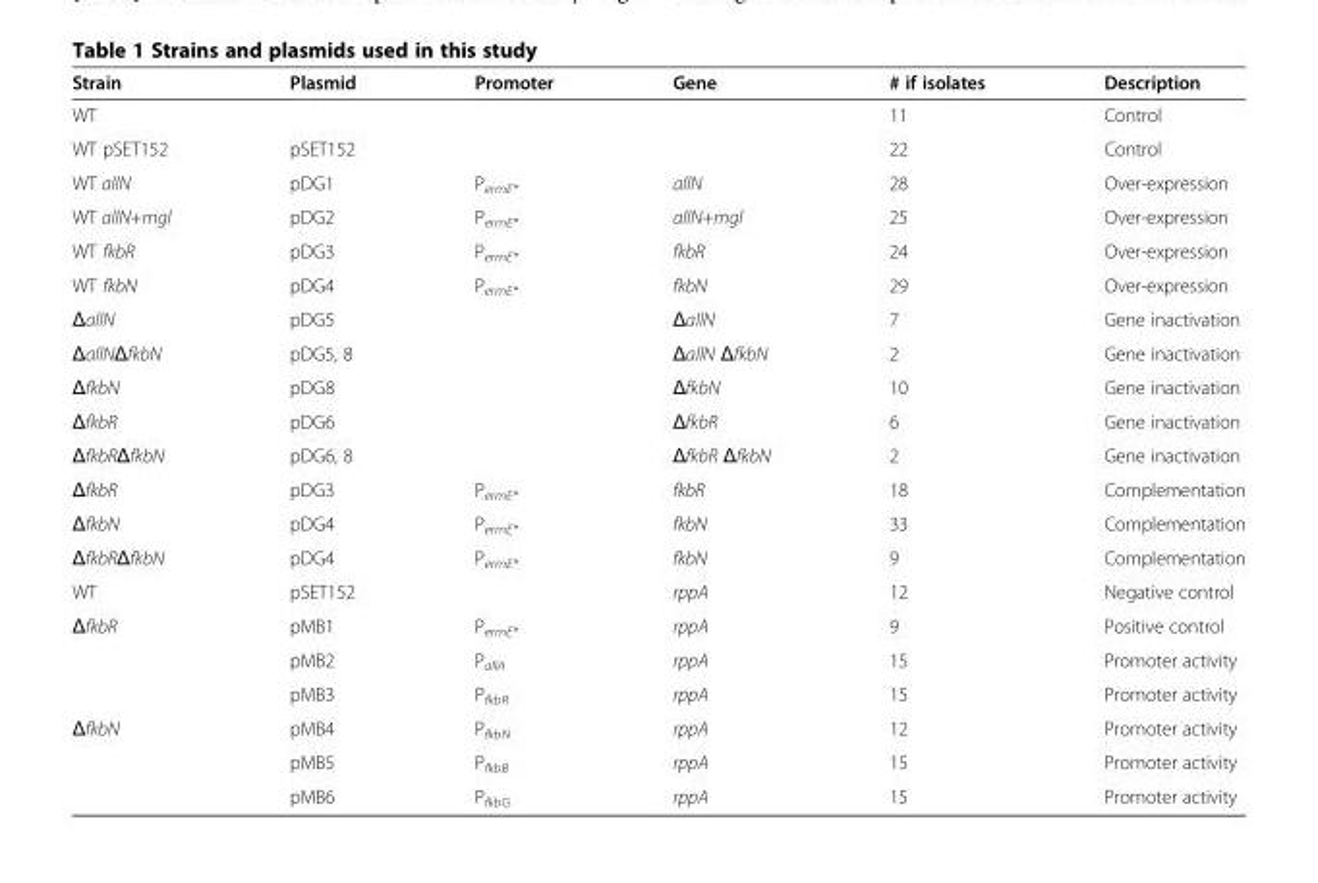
<table><thead><tr><td>Strain</td><td>Plasmid</td><td>Promoter</td><td>Gene</td><td># if isolates</td><td>Description</td></tr></thead><tbody><tr><td>WT</td><td></td><td></td><td></td><td>11</td><td>Control</td></tr><tr><td>WT pSET152</td><td>pSET152</td><td></td><td></td><td>22</td><td>Control</td></tr><tr><td>WT allN</td><td>pDG1</td><td>P<sub>ermE*</sub></td><td>allN</td><td>28</td><td>Over-expression</td></tr><tr><td>WT allN+mgl</td><td>pDG2</td><td>P<sub>ermE*</sub></td><td>allN+mgl</td><td>25</td><td>Over-expression</td></tr><tr><td>WT fkbR</td><td>pDG3</td><td>P<sub>ermE*</sub></td><td>fkbR</td><td>24</td><td>Over-expression</td></tr><tr><td>WT fkbN</td><td>pDG4</td><td>P<sub>ermE*</sub></td><td>fkbN</td><td>29</td><td>Over-expression</td></tr><tr><td>ΔallN</td><td>pDG5</td><td></td><td>ΔallN</td><td>7</td><td>Gene inactivation</td></tr><tr><td>ΔallNΔfkbN</td><td>pDG5, 8</td><td></td><td>ΔallN ΔfkbN</td><td>2</td><td>Gene inactivation</td></tr><tr><td>ΔfkbN</td><td>pDG8</td><td></td><td>ΔfkbN</td><td>10</td><td>Gene inactivation</td></tr><tr><td>ΔfkbR</td><td>pDG6</td><td></td><td>ΔfkbR</td><td>6</td><td>Gene inactivation</td></tr><tr><td>ΔfkbRΔfkbN</td><td>pDG6, 8</td><td></td><td>ΔfkbR ΔfkbN</td><td>2</td><td>Gene inactivation</td></tr><tr><td>ΔfkbR</td><td>pDG3</td><td>P<sub>ermE*</sub></td><td>fkbR</td><td>18</td><td>Complementation</td></tr><tr><td>ΔfkbN</td><td>pDG4</td><td>P<sub>ermE*</sub></td><td>fkbN</td><td>33</td><td>Complementation</td></tr><tr><td>ΔfkbRΔfkbN</td><td>pDG4</td><td>P<sub>ermE*</sub></td><td>fkbN</td><td>9</td><td>Complementation</td></tr><tr><td>WT</td><td>pSET152</td><td></td><td>rppA</td><td>12</td><td>Negative control</td></tr><tr><td rowspan="3">ΔfkbR</td><td>pMB1</td><td>P<sub>ermE*</sub></td><td>rppA</td><td>9</td><td>Positive control</td></tr><tr><td>pMB2</td><td>P<sub>allA</sub></td><td>rppA</td><td>15</td><td>Promoter activity</td></tr><tr><td>pMB3</td><td>P<sub>fkbR</sub></td><td>rppA</td><td>15</td><td>Promoter activity</td></tr><tr><td rowspan="3">ΔfkbN</td><td>pMB4</td><td>P<sub>fkbN</sub></td><td>rppA</td><td>12</td><td>Promoter activity</td></tr><tr><td>pMB5</td><td>P<sub>fkbB</sub></td><td>rppA</td><td>15</td><td>Promoter activity</td></tr><tr><td>pMB6</td><td>P<sub>fkbG</sub></td><td>rppA</td><td>15</td><td>Promoter activity</td></tr></tbody></table>